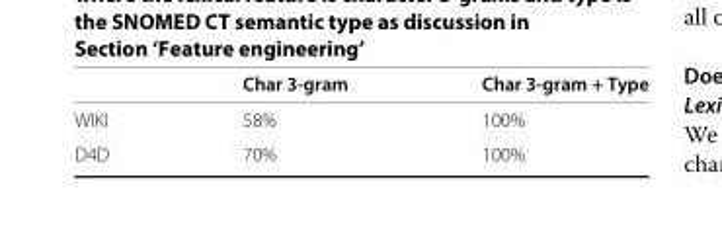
<table><thead><tr><td></td><td>Char 3-gram</td><td>Char 3-gram + Type</td></tr></thead><tbody><tr><td>WIKI</td><td>58%</td><td>100%</td></tr><tr><td>D4D</td><td>70%</td><td>100%</td></tr></tbody></table>